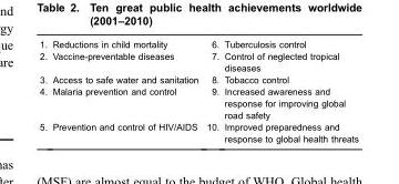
<table><tbody><tr><td>1.</td><td>Reductions in child mortality</td><td>6.</td><td>Tuberculosis control</td></tr><tr><td>2.</td><td>Vaccine-preventable diseases</td><td>7.</td><td>Control of neglected tropical diseases</td></tr><tr><td>3.</td><td>Access to safe water and sanitation</td><td>8.</td><td>Tobacco control</td></tr><tr><td>4.</td><td>Malaria prevention and control</td><td>9.</td><td>Increased awareness and response for improving global road safety</td></tr><tr><td>5.</td><td>Prevention and control of HIV/AIDS</td><td>10.</td><td>Improved preparedness and response to global health threats</td></tr></tbody></table>